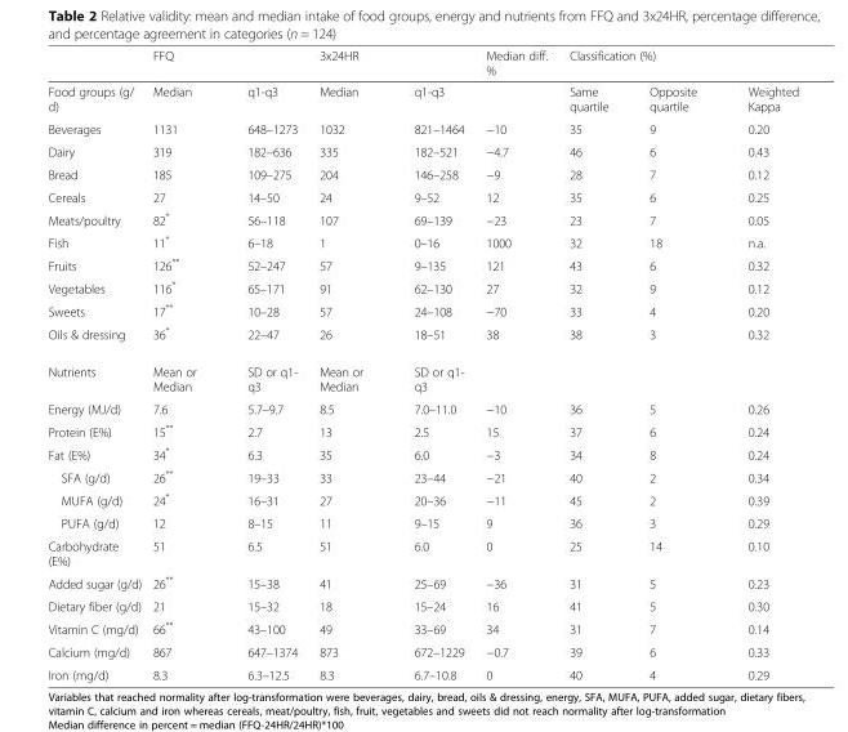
<table><thead><tr><td rowspan="2">Food groups (g/ d)</td><td colspan="2">FFQ</td><td colspan="2">3x24HR</td><td rowspan="2">Median diff. %</td><td colspan="2">Classification (%)</td><td rowspan="2">Weighted Kappa</td></tr><tr><td>Median</td><td>q1-q3</td><td>Median</td><td>q1-q3</td><td>Same quartile</td><td>Opposite quartile</td></tr></thead><tbody><tr><td>Beverages</td><td>1131</td><td>648–1273</td><td>1032</td><td>821–1464</td><td>−10</td><td>35</td><td>9</td><td>0.20</td></tr><tr><td>Dairy</td><td>319</td><td>182–636</td><td>335</td><td>182–521</td><td>−4.7</td><td>46</td><td>6</td><td>0.43</td></tr><tr><td>Bread</td><td>185</td><td>109–275</td><td>204</td><td>146–258</td><td>−9</td><td>28</td><td>7</td><td>0.12</td></tr><tr><td>Cereals</td><td>27</td><td>14–50</td><td>24</td><td>9–52</td><td>12</td><td>35</td><td>6</td><td>0.25</td></tr><tr><td>Meats/poultry</td><td>82*</td><td>56–118</td><td>107</td><td>69–139</td><td>−23</td><td>23</td><td>7</td><td>0.05</td></tr><tr><td>Fish</td><td>11*</td><td>6–18</td><td>1</td><td>0–16</td><td>1000</td><td>32</td><td>18</td><td>n.a.</td></tr><tr><td>Fruits</td><td>126**</td><td>52–247</td><td>57</td><td>9–135</td><td>121</td><td>43</td><td>6</td><td>0.32</td></tr><tr><td>Vegetables</td><td>116*</td><td>65–171</td><td>91</td><td>62–130</td><td>27</td><td>32</td><td>9</td><td>0.12</td></tr><tr><td>Sweets</td><td>17**</td><td>10–28</td><td>57</td><td>24–108</td><td>−70</td><td>33</td><td>4</td><td>0.20</td></tr><tr><td>Oils &amp; dressing</td><td>36*</td><td>22–47</td><td>26</td><td>18–51</td><td>38</td><td>38</td><td>3</td><td>0.32</td></tr><tr><td>Nutrients</td><td>Mean or Median</td><td>SD or q1- q3</td><td>Mean or Median</td><td>SD or q1- q3</td><td></td><td></td><td></td><td></td></tr><tr><td>Energy (MJ/d)</td><td>7.6</td><td>5.7–9.7</td><td>8.5</td><td>7.0–11.0</td><td>−10</td><td>36</td><td>5</td><td>0.26</td></tr><tr><td>Protein (E%)</td><td>15**</td><td>2.7</td><td>13</td><td>2.5</td><td>15</td><td>37</td><td>6</td><td>0.24</td></tr><tr><td>Fat (E%)</td><td>34*</td><td>6.3</td><td>35</td><td>6.0</td><td>−3</td><td>34</td><td>8</td><td>0.24</td></tr><tr><td>SFA (g/d)</td><td>26**</td><td>19–33</td><td>33</td><td>23–44</td><td>−21</td><td>40</td><td>2</td><td>0.34</td></tr><tr><td>MUFA (g/d)</td><td>24*</td><td>16–31</td><td>27</td><td>20–36</td><td>−11</td><td>45</td><td>2</td><td>0.39</td></tr><tr><td>PUFA (g/d)</td><td>12</td><td>8–15</td><td>11</td><td>9–15</td><td>9</td><td>36</td><td>3</td><td>0.29</td></tr><tr><td>Carbohydrate (E%)</td><td>51</td><td>6.5</td><td>51</td><td>6.0</td><td>0</td><td>25</td><td>14</td><td>0.10</td></tr><tr><td>Added sugar (g/d)</td><td>26**</td><td>15–38</td><td>41</td><td>25–69</td><td>−36</td><td>31</td><td>5</td><td>0.23</td></tr><tr><td>Dietary fiber (g/d)</td><td>21</td><td>15–32</td><td>18</td><td>15–24</td><td>16</td><td>41</td><td>5</td><td>0.30</td></tr><tr><td>Vitamin C (mg/d)</td><td>66**</td><td>43–100</td><td>49</td><td>33–69</td><td>34</td><td>31</td><td>7</td><td>0.14</td></tr><tr><td>Calcium (mg/d)</td><td>867</td><td>647–1374</td><td>873</td><td>672–1229</td><td>−0.7</td><td>39</td><td>6</td><td>0.33</td></tr><tr><td>Iron (mg/d)</td><td>8.3</td><td>6.3–12.5</td><td>8.3</td><td>6.7–10.8</td><td>0</td><td>40</td><td>4</td><td>0.29</td></tr></tbody></table>